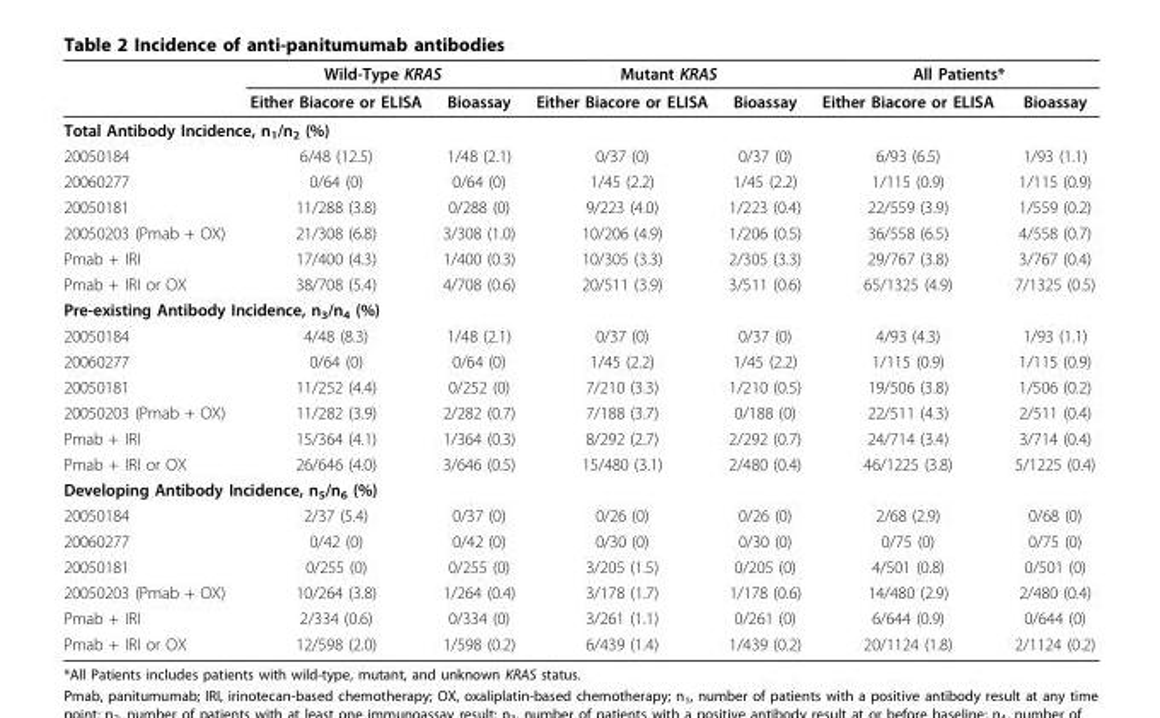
<table><thead><tr><td rowspan="2"></td><td colspan="2">Wild-Type KRAS</td><td colspan="2">Mutant KRAS</td><td colspan="2">All Patients*</td></tr><tr><td>Either Biacore or ELISA</td><td>Bioassay</td><td>Either Biacore or ELISA</td><td>Bioassay</td><td>Either Biacore or ELISA</td><td>Bioassay</td></tr></thead><tbody><tr><td colspan="7">Total Antibody Incidence, n<sub>1</sub>/n<sub>2</sub> (%)</td></tr><tr><td>20050184</td><td>6/48 (12.5)</td><td>1/48 (2.1)</td><td>0/37 (0)</td><td>0/37 (0)</td><td>6/93 (6.5)</td><td>1/93 (1.1)</td></tr><tr><td>20060277</td><td>0/64 (0)</td><td>0/64 (0)</td><td>1/45 (2.2)</td><td>1/45 (2.2)</td><td>1/115 (0.9)</td><td>1/115 (0.9)</td></tr><tr><td>20050181</td><td>11/288 (3.8)</td><td>0/288 (0)</td><td>9/223 (4.0)</td><td>1/223 (0.4)</td><td>22/559 (3.9)</td><td>1/559 (0.2)</td></tr><tr><td>20050203 (Pmab + OX)</td><td>21/308 (6.8)</td><td>3/308 (1.0)</td><td>10/206 (4.9)</td><td>1/206 (0.5)</td><td>36/558 (6.5)</td><td>4/558 (0.7)</td></tr><tr><td>Pmab + IRI</td><td>17/400 (4.3)</td><td>1/400 (0.3)</td><td>10/305 (3.3)</td><td>2/305 (3.3)</td><td>29/767 (3.8)</td><td>3/767 (0.4)</td></tr><tr><td>Pmab + IRI or OX</td><td>38/708 (5.4)</td><td>4/708 (0.6)</td><td>20/511 (3.9)</td><td>3/511 (0.6)</td><td>65/1325 (4.9)</td><td>7/1325 (0.5)</td></tr><tr><td colspan="7">Pre-existing Antibody Incidence, n<sub>3</sub>/n<sub>4</sub> (%)</td></tr><tr><td>20050184</td><td>4/48 (8.3)</td><td>1/48 (2.1)</td><td>0/37 (0)</td><td>0/37 (0)</td><td>4/93 (4.3)</td><td>1/93 (1.1)</td></tr><tr><td>20060277</td><td>0/64 (0)</td><td>0/64 (0)</td><td>1/45 (2.2)</td><td>1/45 (2.2)</td><td>1/115 (0.9)</td><td>1/115 (0.9)</td></tr><tr><td>20050181</td><td>11/252 (4.4)</td><td>0/252 (0)</td><td>7/210 (3.3)</td><td>1/210 (0.5)</td><td>19/506 (3.8)</td><td>1/506 (0.2)</td></tr><tr><td>20050203 (Pmab + OX)</td><td>11/282 (3.9)</td><td>2/282 (0.7)</td><td>7/188 (3.7)</td><td>0/188 (0)</td><td>22/511 (4.3)</td><td>2/511 (0.4)</td></tr><tr><td>Pmab + IRI</td><td>15/364 (4.1)</td><td>1/364 (0.3)</td><td>8/292 (2.7)</td><td>2/292 (0.7)</td><td>24/714 (3.4)</td><td>3/714 (0.4)</td></tr><tr><td>Pmab + IRI or OX</td><td>26/646 (4.0)</td><td>3/646 (0.5)</td><td>15/480 (3.1)</td><td>2/480 (0.4)</td><td>46/1225 (3.8)</td><td>5/1225 (0.4)</td></tr><tr><td colspan="7">Developing Antibody Incidence, n<sub>5</sub>/n<sub>6</sub> (%)</td></tr><tr><td>20050184</td><td>2/37 (5.4)</td><td>0/37 (0)</td><td>0/26 (0)</td><td>0/26 (0)</td><td>2/68 (2.9)</td><td>0/68 (0)</td></tr><tr><td>20060277</td><td>0/42 (0)</td><td>0/42 (0)</td><td>0/30 (0)</td><td>0/30 (0)</td><td>0/75 (0)</td><td>0/75 (0)</td></tr><tr><td>20050181</td><td>0/255 (0)</td><td>0/255 (0)</td><td>3/205 (1.5)</td><td>0/205 (0)</td><td>4/501 (0.8)</td><td>0/501 (0)</td></tr><tr><td>20050203 (Pmab + OX)</td><td>10/264 (3.8)</td><td>1/264 (0.4)</td><td>3/178 (1.7)</td><td>1/178 (0.6)</td><td>14/480 (2.9)</td><td>2/480 (0.4)</td></tr><tr><td>Pmab + IRI</td><td>2/334 (0.6)</td><td>0/334 (0)</td><td>3/261 (1.1)</td><td>0/261 (0)</td><td>6/644 (0.9)</td><td>0/644 (0)</td></tr><tr><td>Pmab + IRI or OX</td><td>12/598 (2.0)</td><td>1/598 (0.2)</td><td>6/439 (1.4)</td><td>1/439 (0.2)</td><td>20/1124 (1.8)</td><td>2/1124 (0.2)</td></tr></tbody></table>